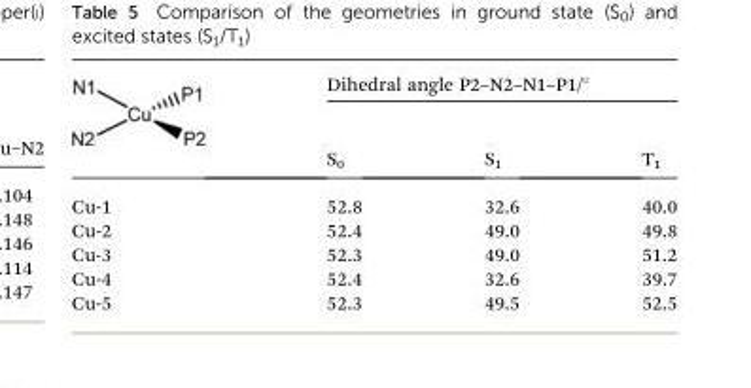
<table><thead><tr><td rowspan="2"></td><td colspan="3">Dihedral angle P2–N2–N1–P1/°</td></tr><tr><td>S<sub>0</sub></td><td>S<sub>1</sub></td><td>T<sub>1</sub></td></tr></thead><tbody><tr><td>Cu-1</td><td>52.8</td><td>32.6</td><td>40.0</td></tr><tr><td>Cu-2</td><td>52.4</td><td>49.0</td><td>49.8</td></tr><tr><td>Cu-3</td><td>52.3</td><td>49.0</td><td>51.2</td></tr><tr><td>Cu-4</td><td>52.4</td><td>32.6</td><td>39.7</td></tr><tr><td>Cu-5</td><td>52.3</td><td>49.5</td><td>52.5</td></tr></tbody></table>